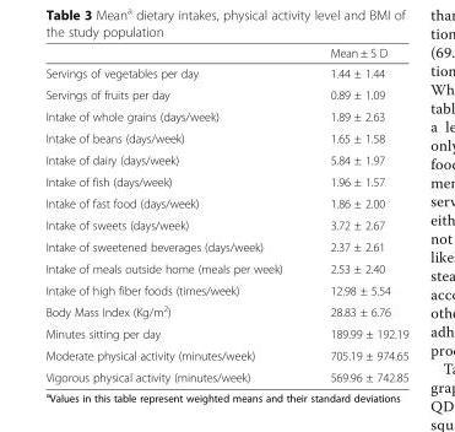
<table><thead><tr><td></td><td>Mean ± S D</td></tr></thead><tbody><tr><td>Servings of vegetables per day</td><td>1.44 ± 1.44</td></tr><tr><td>Servings of fruits per day</td><td>0.89 ± 1.09</td></tr><tr><td>Intake of whole grains (days/week)</td><td>1.89 ± 2.63</td></tr><tr><td>Intake of beans (days/week)</td><td>1.65 ± 1.58</td></tr><tr><td>Intake of dairy (days/week)</td><td>5.84 ± 1.97</td></tr><tr><td>Intake of fish (days/week)</td><td>1.96 ± 1.57</td></tr><tr><td>Intake of fast food (days/week)</td><td>1.86 ± 2.00</td></tr><tr><td>Intake of sweets (days/week)</td><td>3.72 ± 2.67</td></tr><tr><td>Intake of sweetened beverages (days/week)</td><td>2.37 ± 2.61</td></tr><tr><td>Intake of meals outside home (meals per week)</td><td>2.53 ± 2.40</td></tr><tr><td>Intake of high fiber foods (times/week)</td><td>12.98 ± 5.54</td></tr><tr><td>Body Mass Index (Kg/m<sup>2</sup>)</td><td>28.83 ± 6.76</td></tr><tr><td>Minutes sitting per day</td><td>189.99 ± 192.19</td></tr><tr><td>Moderate physical activity (minutes/week)</td><td>705.19 ± 974.65</td></tr><tr><td>Vigorous physical activity (minutes/week)</td><td>569.96 ± 742.85</td></tr></tbody></table>